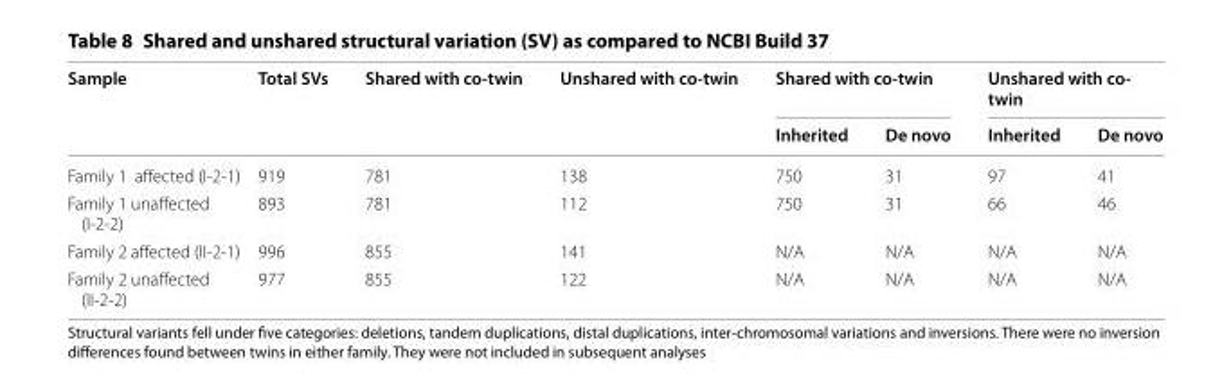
<table><thead><tr><td rowspan="2">Sample</td><td rowspan="2">Total SVs</td><td rowspan="2">Shared with co-twin</td><td rowspan="2">Unshared with co-twin</td><td colspan="2">Shared with co-twin</td><td colspan="2">Unshared with co- twin</td></tr><tr><td>Inherited</td><td>De novo</td><td>Inherited</td><td>De novo</td></tr></thead><tbody><tr><td>Family 1 affected (I-2-1)</td><td>919</td><td>781</td><td>138</td><td>750</td><td>31</td><td>97</td><td>41</td></tr><tr><td>Family 1 unaffected (I-2-2)</td><td>893</td><td>781</td><td>112</td><td>750</td><td>31</td><td>66</td><td>46</td></tr><tr><td>Family 2 affected (II-2-1)</td><td>996</td><td>855</td><td>141</td><td>N/A</td><td>N/A</td><td>N/A</td><td>N/A</td></tr><tr><td>Family 2 unaffected (II-2-2)</td><td>977</td><td>855</td><td>122</td><td>N/A</td><td>N/A</td><td>N/A</td><td>N/A</td></tr></tbody></table>